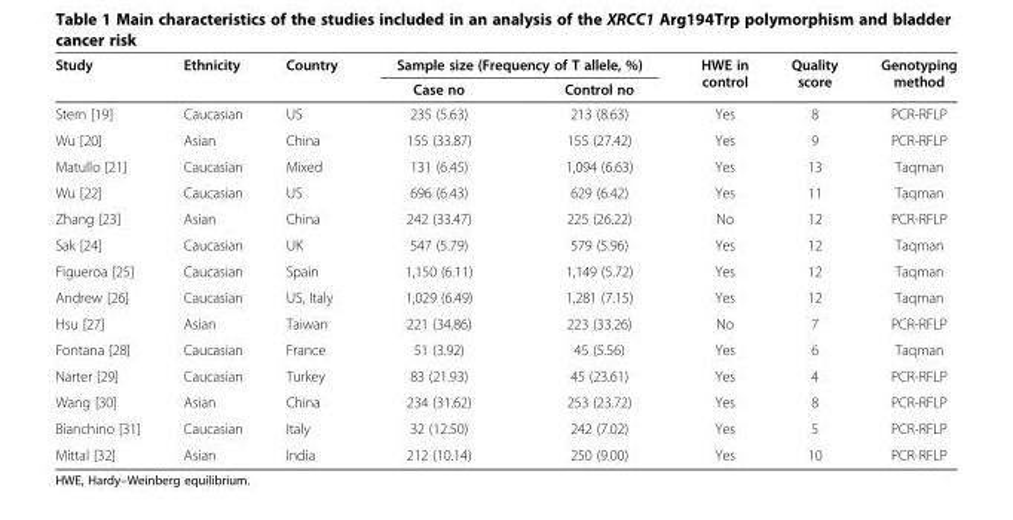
<table><thead><tr><td rowspan="2">Study</td><td rowspan="2">Ethnicity</td><td rowspan="2">Country</td><td colspan="2">Sample size (Frequency of T allele, %)</td><td rowspan="2">HWE in control</td><td rowspan="2">Quality score</td><td rowspan="2">Genotyping method</td></tr><tr><td>Case no</td><td>Control no</td></tr></thead><tbody><tr><td>Stern [19]</td><td>Caucasian</td><td>US</td><td>235 (5.63)</td><td>213 (8.63)</td><td>Yes</td><td>8</td><td>PCR-RFLP</td></tr><tr><td>Wu [20]</td><td>Asian</td><td>China</td><td>155 (33.87)</td><td>155 (27.42)</td><td>Yes</td><td>9</td><td>PCR-RFLP</td></tr><tr><td>Matullo [21]</td><td>Caucasian</td><td>Mixed</td><td>131 (6.45)</td><td>1,094 (6.63)</td><td>Yes</td><td>13</td><td>Taqman</td></tr><tr><td>Wu [22]</td><td>Caucasian</td><td>US</td><td>696 (6.43)</td><td>629 (6.42)</td><td>Yes</td><td>11</td><td>Taqman</td></tr><tr><td>Zhang [23]</td><td>Asian</td><td>China</td><td>242 (33.47)</td><td>225 (26.22)</td><td>No</td><td>12</td><td>PCR-RFLP</td></tr><tr><td>Sak [24]</td><td>Caucasian</td><td>UK</td><td>547 (5.79)</td><td>579 (5.96)</td><td>Yes</td><td>12</td><td>Taqman</td></tr><tr><td>Figueroa [25]</td><td>Caucasian</td><td>Spain</td><td>1,150 (6.11)</td><td>1,149 (5.72)</td><td>Yes</td><td>12</td><td>Taqman</td></tr><tr><td>Andrew [26]</td><td>Caucasian</td><td>US, Italy</td><td>1,029 (6.49)</td><td>1,281 (7.15)</td><td>Yes</td><td>12</td><td>Taqman</td></tr><tr><td>Hsu [27]</td><td>Asian</td><td>Taiwan</td><td>221 (34.86)</td><td>223 (33.26)</td><td>No</td><td>7</td><td>PCR-RFLP</td></tr><tr><td>Fontana [28]</td><td>Caucasian</td><td>France</td><td>51 (3.92)</td><td>45 (5.56)</td><td>Yes</td><td>6</td><td>Taqman</td></tr><tr><td>Narter [29]</td><td>Caucasian</td><td>Turkey</td><td>83 (21.93)</td><td>45 (23.61)</td><td>Yes</td><td>4</td><td>PCR-RFLP</td></tr><tr><td>Wang [30]</td><td>Asian</td><td>China</td><td>234 (31.62)</td><td>253 (23.72)</td><td>Yes</td><td>8</td><td>PCR-RFLP</td></tr><tr><td>Bianchino [31]</td><td>Caucasian</td><td>Italy</td><td>32 (12.50)</td><td>242 (7.02)</td><td>Yes</td><td>5</td><td>PCR-RFLP</td></tr><tr><td>Mittal [32]</td><td>Asian</td><td>India</td><td>212 (10.14)</td><td>250 (9.00)</td><td>Yes</td><td>10</td><td>PCR-RFLP</td></tr></tbody></table>